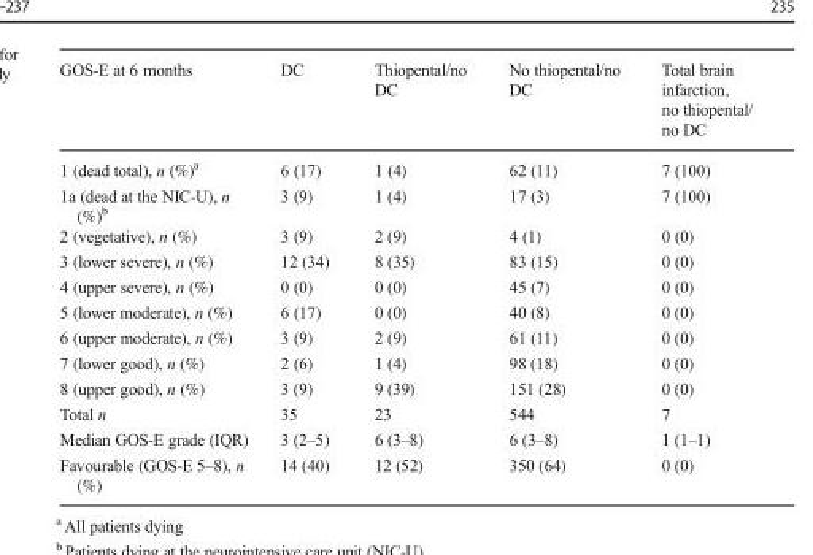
<table><thead><tr><td>GOS-E at 6 months</td><td>DC</td><td>Thiopental/no DC</td><td>No thiopental/no DC</td><td>Total brain infarction, no thiopental/ no DC</td></tr></thead><tbody><tr><td>1 (dead total), n (%)<sup>a</sup></td><td>6 (17)</td><td>1 (4)</td><td>62 (11)</td><td>7 (100)</td></tr><tr><td>1a (dead at the NIC-U), n (%)<sup>b</sup></td><td>3 (9)</td><td>1 (4)</td><td>17 (3)</td><td>7 (100)</td></tr><tr><td>2 (vegetative), n (%)</td><td>3 (9)</td><td>2 (9)</td><td>4 (1)</td><td>0 (0)</td></tr><tr><td>3 (lower severe), n (%)</td><td>12 (34)</td><td>8 (35)</td><td>83 (15)</td><td>0 (0)</td></tr><tr><td>4 (upper severe), n (%)</td><td>0 (0)</td><td>0 (0)</td><td>45 (7)</td><td>0 (0)</td></tr><tr><td>5 (lower moderate), n (%)</td><td>6 (17)</td><td>0 (0)</td><td>40 (8)</td><td>0 (0)</td></tr><tr><td>6 (upper moderate), n (%)</td><td>3 (9)</td><td>2 (9)</td><td>61 (11)</td><td>0 (0)</td></tr><tr><td>7 (lower good), n (%)</td><td>2 (6)</td><td>1 (4)</td><td>98 (18)</td><td>0 (0)</td></tr><tr><td>8 (upper good), n (%)</td><td>3 (9)</td><td>9 (39)</td><td>151 (28)</td><td>0 (0)</td></tr><tr><td>Total n</td><td>35</td><td>23</td><td>544</td><td>7</td></tr><tr><td>Median GOS-E grade (IQR)</td><td>3 (2–5)</td><td>6 (3–8)</td><td>6 (3–8)</td><td>1 (1–1)</td></tr><tr><td>Favourable (GOS-E 5–8), n (%)</td><td>14 (40)</td><td>12 (52)</td><td>350 (64)</td><td>0 (0)</td></tr></tbody></table>